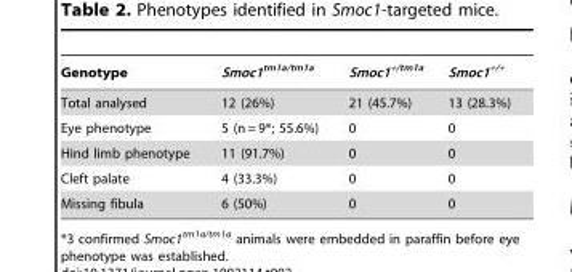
<table><thead><tr><td>Genotype</td><td>Smoc1<sup>tm1a/tm1a</sup></td><td>Smoc1<sup>+/tm1a</sup></td><td>Smoc1<sup>+/+</sup></td></tr></thead><tbody><tr><td>Total analysed</td><td>12 (26%)</td><td>21 (45.7%)</td><td>13 (28.3%)</td></tr><tr><td>Eye phenotype</td><td>5 (n = 9*; 55.6%)</td><td>0</td><td>0</td></tr><tr><td>Hind limb phenotype</td><td>11 (91.7%)</td><td>0</td><td>0</td></tr><tr><td>Cleft palate</td><td>4 (33.3%)</td><td>0</td><td>0</td></tr><tr><td>Missing fibula</td><td>6 (50%)</td><td>0</td><td>0</td></tr></tbody></table>